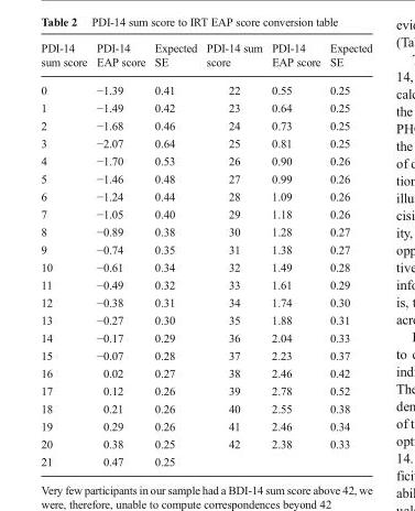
<table><thead><tr><td>PDI-14 sum score</td><td>PDI-14 EAP score</td><td>Expected SE</td><td>PDI-14 sum score</td><td>PDI-14 EAP score</td><td>Expected SE</td></tr></thead><tbody><tr><td>0</td><td>−1.39</td><td>0.41</td><td>22</td><td>0.55</td><td>0.25</td></tr><tr><td>1</td><td>−1.49</td><td>0.42</td><td>23</td><td>0.64</td><td>0.25</td></tr><tr><td>2</td><td>−1.68</td><td>0.46</td><td>24</td><td>0.73</td><td>0.25</td></tr><tr><td>3</td><td>−2.07</td><td>0.64</td><td>25</td><td>0.81</td><td>0.25</td></tr><tr><td>4</td><td>−1.70</td><td>0.53</td><td>26</td><td>0.90</td><td>0.26</td></tr><tr><td>5</td><td>−1.46</td><td>0.48</td><td>27</td><td>0.99</td><td>0.26</td></tr><tr><td>6</td><td>−1.24</td><td>0.44</td><td>28</td><td>1.09</td><td>0.26</td></tr><tr><td>7</td><td>−1.05</td><td>0.40</td><td>29</td><td>1.18</td><td>0.26</td></tr><tr><td>8</td><td>−0.89</td><td>0.38</td><td>30</td><td>1.28</td><td>0.27</td></tr><tr><td>9</td><td>−0.74</td><td>0.35</td><td>31</td><td>1.38</td><td>0.27</td></tr><tr><td>10</td><td>−0.61</td><td>0.34</td><td>32</td><td>1.49</td><td>0.28</td></tr><tr><td>11</td><td>−0.49</td><td>0.32</td><td>33</td><td>1.61</td><td>0.29</td></tr><tr><td>12</td><td>−0.38</td><td>0.31</td><td>34</td><td>1.74</td><td>0.30</td></tr><tr><td>13</td><td>−0.27</td><td>0.30</td><td>35</td><td>1.88</td><td>0.31</td></tr><tr><td>14</td><td>−0.17</td><td>0.29</td><td>36</td><td>2.04</td><td>0.33</td></tr><tr><td>15</td><td>−0.07</td><td>0.28</td><td>37</td><td>2.23</td><td>0.37</td></tr><tr><td>16</td><td>0.02</td><td>0.27</td><td>38</td><td>2.46</td><td>0.42</td></tr><tr><td>17</td><td>0.12</td><td>0.26</td><td>39</td><td>2.78</td><td>0.52</td></tr><tr><td>18</td><td>0.21</td><td>0.26</td><td>40</td><td>2.55</td><td>0.38</td></tr><tr><td>19</td><td>0.29</td><td>0.26</td><td>41</td><td>2.46</td><td>0.34</td></tr><tr><td>20</td><td>0.38</td><td>0.25</td><td>42</td><td>2.38</td><td>0.33</td></tr><tr><td>21</td><td>0.47</td><td>0.25</td><td></td><td></td><td></td></tr></tbody></table>